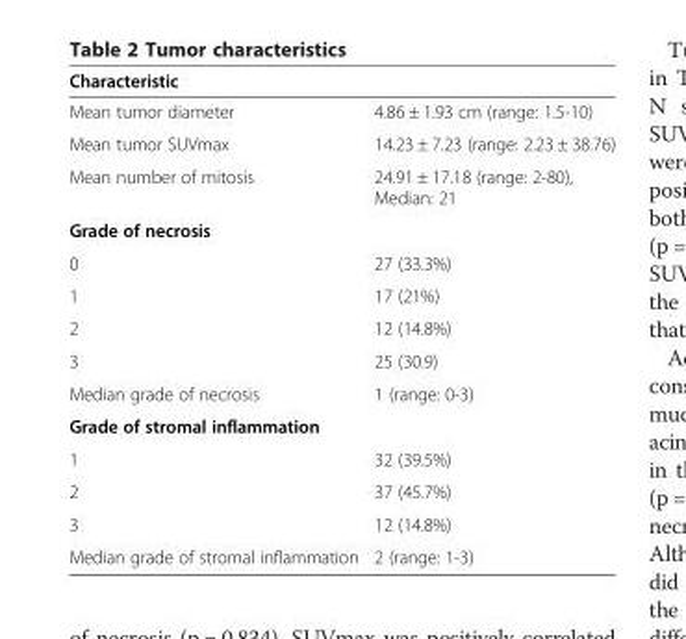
<table><thead><tr><td>Characteristic</td><td></td></tr></thead><tbody><tr><td>Mean tumor diameter</td><td>4.86 ± 1.93 cm (range: 1.5-10)</td></tr><tr><td>Mean tumor SUVmax</td><td>14.23 ± 7.23 (range: 2.23 ± 38.76)</td></tr><tr><td>Mean number of mitosis</td><td>24.91 ± 17.18 (range: 2-80), Median: 21</td></tr><tr><td colspan="2">Grade of necrosis</td></tr><tr><td>0</td><td>27 (33.3%)</td></tr><tr><td>1</td><td>17 (21%)</td></tr><tr><td>2</td><td>12 (14.8%)</td></tr><tr><td>3</td><td>25 (30.9)</td></tr><tr><td>Median grade of necrosis</td><td>1 (range: 0-3)</td></tr><tr><td colspan="2">Grade of stromal inflammation</td></tr><tr><td>1</td><td>32 (39.5%)</td></tr><tr><td>2</td><td>37 (45.7%)</td></tr><tr><td>3</td><td>12 (14.8%)</td></tr><tr><td>Median grade of stromal inflammation</td><td>2 (range: 1-3)</td></tr></tbody></table>